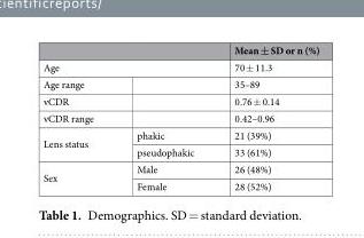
<table><thead><tr><td></td><td></td><td>Mean ± SD or n (%)</td></tr></thead><tbody><tr><td colspan="2">Age</td><td>70 ± 11.3</td></tr><tr><td>Age range</td><td></td><td>35–89</td></tr><tr><td>vCDR</td><td></td><td>0.76 ± 0.14</td></tr><tr><td>vCDR range</td><td></td><td>0.42–0.96</td></tr><tr><td rowspan="2">Lens status</td><td>phakic</td><td>21 (39%)</td></tr><tr><td>pseudophakic</td><td>33 (61%)</td></tr><tr><td rowspan="2">Sex</td><td>Male</td><td>26 (48%)</td></tr><tr><td>Female</td><td>28 (52%)</td></tr></tbody></table>